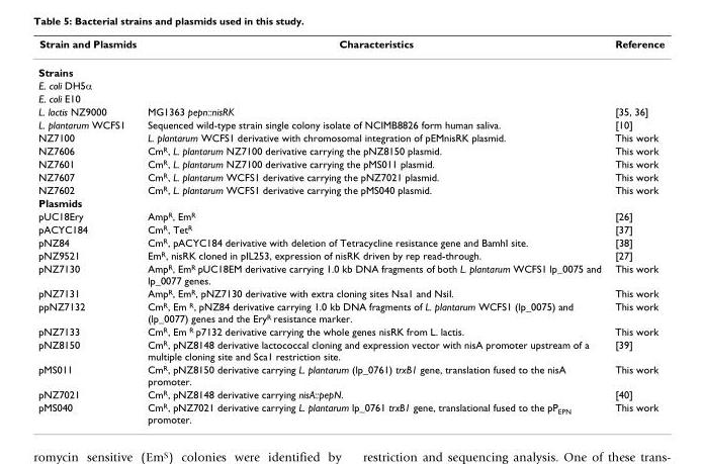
<table><thead><tr><td>Strain and Plasmids</td><td>Characteristics</td><td>Reference</td></tr></thead><tbody><tr><td colspan="3">Strains</td></tr><tr><td colspan="3">E. coli DH5α</td></tr><tr><td colspan="3">E. coli E10</td></tr><tr><td>L. lactis NZ9000</td><td>MG1363 pepn::nisRK</td><td>[35, 36]</td></tr><tr><td>L. plantarum WCFS1</td><td>Sequenced wild-type strain single colony isolate of NCIMB8826 form human saliva.</td><td>[10]</td></tr><tr><td>NZ7100</td><td>L. plantarum WCFS1 derivative with chromosomal integration of pEMnisRK plasmid.</td><td>This work</td></tr><tr><td>NZ7606</td><td>Cm<sup>R</sup>, L. plantarum NZ7100 derivative carrying the pNZ8150 plasmid.</td><td>This work</td></tr><tr><td>NZ7601</td><td>Cm<sup>R</sup>, L. plantarum NZ7100 derivative carrying the pMS011 plasmid.</td><td>This work</td></tr><tr><td>NZ7607</td><td>Cm<sup>R</sup>, L. plantarum WCFS1 derivative carrying the pNZ7021 plasmid.</td><td>This work</td></tr><tr><td>NZ7602</td><td>Cm<sup>R</sup>, L. plantarum WCFS1 derivative carrying the pMS040 plasmid.</td><td>This work</td></tr><tr><td colspan="3">Plasmids</td></tr><tr><td>pUC18Ery</td><td>Amp<sup>R</sup>, Em<sup>R</sup></td><td>[26]</td></tr><tr><td>pACYC184</td><td>Cm<sup>R</sup>, Tet<sup>R</sup></td><td>[37]</td></tr><tr><td>pNZ84</td><td>Cm<sup>R</sup>, pACYC184 derivative with deletion of Tetracycline resistance gene and BamhI site.</td><td>[38]</td></tr><tr><td>pNZ9521</td><td>Em<sup>R</sup>, nisRK cloned in pIL253, expression of nisRK driven by rep read-through.</td><td>[27]</td></tr><tr><td>pNZ7130</td><td>Amp<sup>R</sup>, Em<sup>R</sup> pUC18EM derivative carrying 1.0 kb DNA fragments of both L. plantarum WCFS1 lp_0075 and lp_0077 genes.</td><td>This work</td></tr><tr><td>pNZ7131</td><td>Amp<sup>R</sup>, Em<sup>R</sup>, pNZ7130 derivative with extra cloning sites Nsa1 and NsiI.</td><td>This work</td></tr><tr><td>ppNZ7132</td><td>Cm<sup>R</sup>, Em <sup>R</sup>, pNZ84 derivative carrying 1.0 kb DNA fragments of L. plantarum WCFS1 (lp_0075) and (lp_0077) genes and the Ery<sup>R</sup> resistance marker.</td><td>This work</td></tr><tr><td>pNZ7133</td><td>Cm<sup>R</sup>, Em <sup>R</sup> p7132 derivative carrying the whole genes nisRK from L. lactis.</td><td>This work</td></tr><tr><td>pNZ8150</td><td>Cm<sup>R</sup>, pNZ8148 derivative lactococcal cloning and expression vector with nisA promoter upstream of a multiple cloning site and Sca1 restriction site.</td><td>[39]</td></tr><tr><td>pMS011</td><td>Cm<sup>R</sup>, pNZ8150 derivative carrying L. plantarum (lp_0761) trxB1 gene, translation fused to the nisA promoter.</td><td>This work</td></tr><tr><td>pNZ7021</td><td>Cm<sup>R</sup>, pNZ8148 derivative carrying nisA::pepN.</td><td>[40]</td></tr><tr><td>pMS040</td><td>Cm<sup>R</sup>, pNZ7021 derivative carrying L. plantarum lp_0761 trxB1 gene, translational fused to the pP<sub>EPN</sub> promoter.</td><td>This work</td></tr></tbody></table>